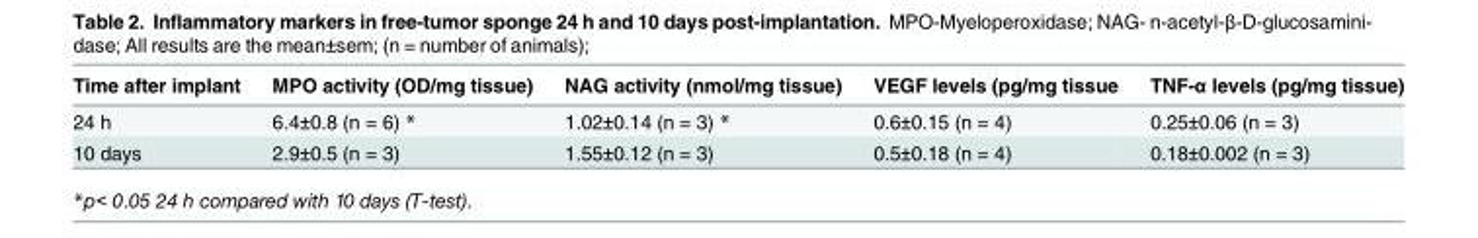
<table><thead><tr><td>Time after implant</td><td>MPO activity (OD/mg tissue)</td><td>NAG activity (nmol/mg tissue)</td><td>VEGF levels (pg/mg tissue</td><td>TNF-α levels (pg/mg tissue)</td></tr></thead><tbody><tr><td>24 h</td><td>6.4±0.8 (n = 6) *</td><td>1.02±0.14 (n = 3) *</td><td>0.6±0.15 (n = 4)</td><td>0.25±0.06 (n = 3)</td></tr><tr><td>10 days</td><td>2.9±0.5 (n = 3)</td><td>1.55±0.12 (n = 3)</td><td>0.5±0.18 (n = 4)</td><td>0.18±0.002 (n = 3)</td></tr></tbody></table>